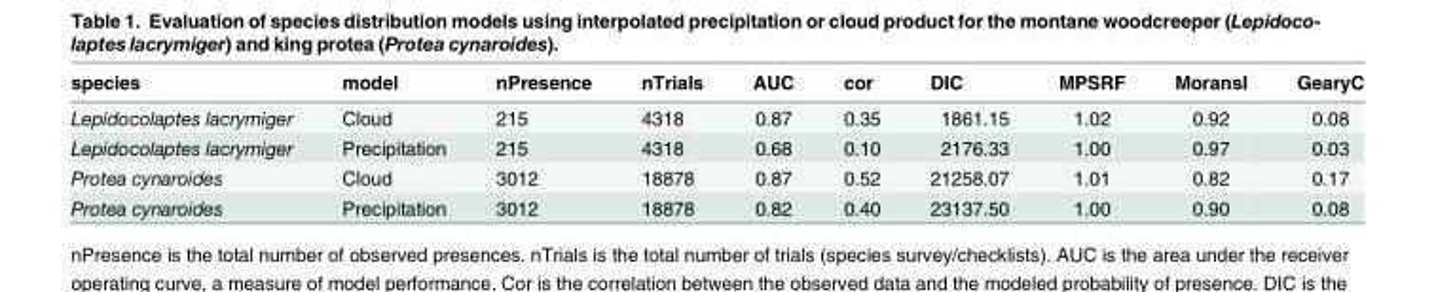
<table><thead><tr><td>species</td><td>model</td><td>nPresence</td><td>nTrials</td><td>AUC</td><td>cor</td><td>DIC</td><td>MPSRF</td><td>MoransI</td><td>GearyC</td></tr></thead><tbody><tr><td>Lepidocolaptes lacrymiger</td><td>Cloud</td><td>215</td><td>4318</td><td>0.87</td><td>0.35</td><td>1861.15</td><td>1.02</td><td>0.92</td><td>0.08</td></tr><tr><td>Lepidocolaptes lacrymiger</td><td>Precipitation</td><td>215</td><td>4318</td><td>0.68</td><td>0.10</td><td>2176.33</td><td>1.00</td><td>0.97</td><td>0.03</td></tr><tr><td>Protea cynaroides</td><td>Cloud</td><td>3012</td><td>18878</td><td>0.87</td><td>0.52</td><td>21258.07</td><td>1.01</td><td>0.82</td><td>0.17</td></tr><tr><td>Protea cynaroides</td><td>Precipitation</td><td>3012</td><td>18878</td><td>0.82</td><td>0.40</td><td>23137.50</td><td>1.00</td><td>0.90</td><td>0.08</td></tr></tbody></table>